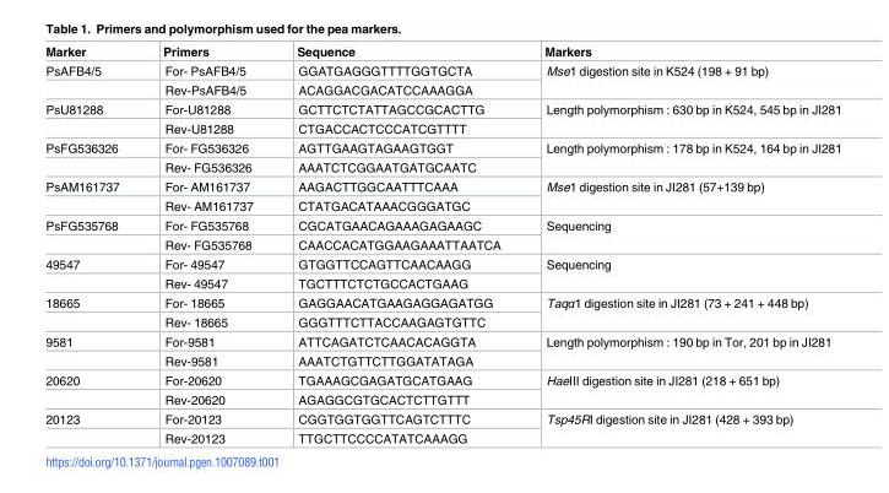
<table><thead><tr><td>Marker</td><td>Primers</td><td>Sequence</td><td>Markers</td></tr></thead><tbody><tr><td rowspan="2">PsAFB4/5</td><td>For- PsAFB4/5</td><td>GGATGAGGGTTTTGGTGCTA</td><td rowspan="2">Mse1 digestion site in K524 (198 + 91 bp)</td></tr><tr><td>Rev-PsAFB4/5</td><td>ACAGGACGACATCCAAAGGA</td></tr><tr><td rowspan="2">PsU81288</td><td>For-U81288</td><td>GCTTCTCTATTAGCCGCACTTG</td><td rowspan="2">Length polymorphism : 630 bp in K524, 545 bp in JI281</td></tr><tr><td>Rev-U81288</td><td>CTGACCACTCCCATCGTTTT</td></tr><tr><td rowspan="2">PsFG536326</td><td>For- FG536326</td><td>AGTTGAAGTAGAAGTGGT</td><td rowspan="2">Length polymorphism : 178 bp in K524, 164 bp in JI281</td></tr><tr><td>Rev- FG536326</td><td>AAATCTCGGAATGATGCAATC</td></tr><tr><td rowspan="2">PsAM161737</td><td>For- AM161737</td><td>AAGACTTGGCAATTTCAAA</td><td rowspan="2">Mse1 digestion site in JI281 (57+139 bp)</td></tr><tr><td>Rev- AM161737</td><td>CTATGACATAAACGGGATGC</td></tr><tr><td rowspan="2">PsFG535768</td><td>For- FG535768</td><td>CGCATGAACAGAAAGAGAAGC</td><td rowspan="2">Sequencing</td></tr><tr><td>Rev- FG535768</td><td>CAACCACATGGAAGAAATTAATCA</td></tr><tr><td rowspan="2">49547</td><td>For- 49547</td><td>GTGGTTCCAGTTCAACAAGG</td><td rowspan="2">Sequencing</td></tr><tr><td>Rev- 49547</td><td>TGCTTTCTCTGCCACTGAAG</td></tr><tr><td rowspan="2">18665</td><td>For- 18665</td><td>GAGGAACATGAAGAGGAGATGG</td><td rowspan="2">Taqα1 digestion site in JI281 (73 + 241 + 448 bp)</td></tr><tr><td>Rev- 18665</td><td>GGGTTTCTTACCAAGAGTGTTC</td></tr><tr><td rowspan="2">9581</td><td>For-9581</td><td>ATTCAGATCTCAACACAGGTA</td><td rowspan="2">Length polymorphism : 190 bp in Tor, 201 bp in JI281</td></tr><tr><td>Rev-9581</td><td>AAATCTGTTCTTGGATATAGA</td></tr><tr><td rowspan="2">20620</td><td>For-20620</td><td>TGAAAGCGAGATGCATGAAG</td><td rowspan="2">HaeIII digestion site in JI281 (218 + 651 bp)</td></tr><tr><td>Rev-20620</td><td>AGAGGCGTGCACTCTTGTTT</td></tr><tr><td rowspan="2">20123</td><td>For-20123</td><td>CGGTGGTGGTTCAGTCTTTC</td><td rowspan="2">Tsp45RI digestion site in JI281 (428 + 393 bp)</td></tr><tr><td>Rev-20123</td><td>TTGCTTCCCCATATCAAAGG</td></tr></tbody></table>